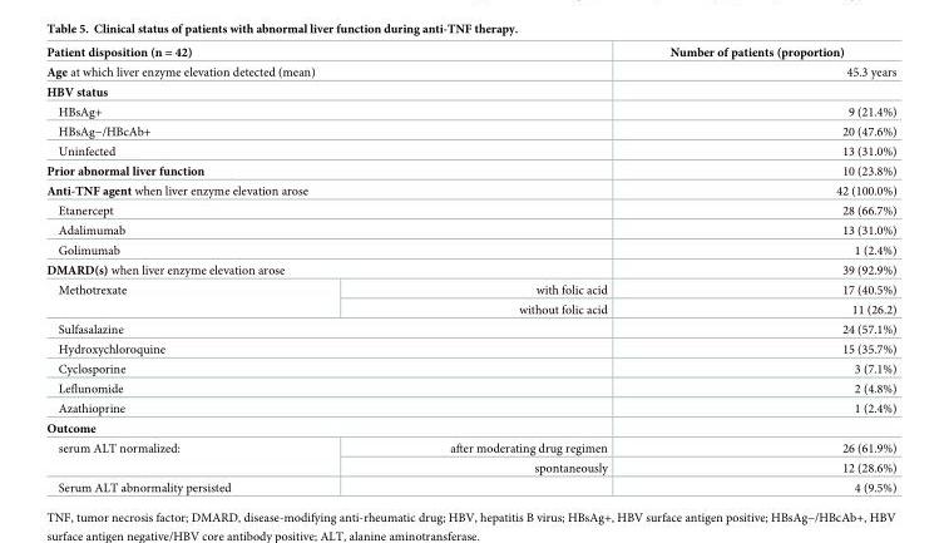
<table><thead><tr><td colspan="2">Patient disposition (n = 42)</td><td>Number of patients (proportion)</td></tr></thead><tbody><tr><td colspan="2">Age at which liver enzyme elevation detected (mean)</td><td>45.3 years</td></tr><tr><td colspan="3">HBV status</td></tr><tr><td colspan="2">HBsAg+</td><td>9 (21.4%)</td></tr><tr><td colspan="2">HBsAg−/HBcAb+</td><td>20 (47.6%)</td></tr><tr><td colspan="2">Uninfected</td><td>13 (31.0%)</td></tr><tr><td colspan="2">Prior abnormal liver function</td><td>10 (23.8%)</td></tr><tr><td colspan="2">Anti-TNF agent when liver enzyme elevation arose</td><td>42 (100.0%)</td></tr><tr><td colspan="2">Etanercept</td><td>28 (66.7%)</td></tr><tr><td colspan="2">Adalimumab</td><td>13 (31.0%)</td></tr><tr><td colspan="2">Golimumab</td><td>1 (2.4%)</td></tr><tr><td colspan="2">DMARD(s) when liver enzyme elevation arose</td><td>39 (92.9%)</td></tr><tr><td rowspan="2">Methotrexate</td><td>with folic acid</td><td>17 (40.5%)</td></tr><tr><td>without folic acid</td><td>11 (26.2)</td></tr><tr><td colspan="2">Sulfasalazine</td><td>24 (57.1%)</td></tr><tr><td colspan="2">Hydroxychloroquine</td><td>15 (35.7%)</td></tr><tr><td colspan="2">Cyclosporine</td><td>3 (7.1%)</td></tr><tr><td colspan="2">Leflunomide</td><td>2 (4.8%)</td></tr><tr><td colspan="2">Azathioprine</td><td>1 (2.4%)</td></tr><tr><td colspan="3">Outcome</td></tr><tr><td rowspan="2">serum ALT normalized:</td><td>after moderating drug regimen</td><td>26 (61.9%)</td></tr><tr><td>spontaneously</td><td>12 (28.6%)</td></tr><tr><td>Serum ALT abnormality persisted</td><td></td><td>4 (9.5%)</td></tr></tbody></table>